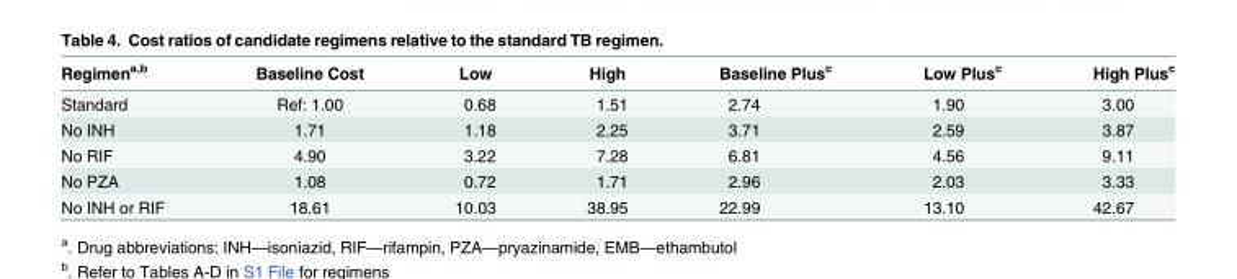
<table><thead><tr><td>Regimen<sup>a,b</sup></td><td>Baseline Cost</td><td>Low</td><td>High</td><td>Baseline Plus<sup>c</sup></td><td>Low Plus<sup>c</sup></td><td>High Plus<sup>c</sup></td></tr></thead><tbody><tr><td>Standard</td><td>Ref: 1.00</td><td>0.68</td><td>1.51</td><td>2.74</td><td>1.90</td><td>3.00</td></tr><tr><td>No INH</td><td>1.71</td><td>1.18</td><td>2.25</td><td>3.71</td><td>2.59</td><td>3.87</td></tr><tr><td>No RIF</td><td>4.90</td><td>3.22</td><td>7.28</td><td>6.81</td><td>4.56</td><td>9.11</td></tr><tr><td>No PZA</td><td>1.08</td><td>0.72</td><td>1.71</td><td>2.96</td><td>2.03</td><td>3.33</td></tr><tr><td>No INH or RIF</td><td>18.61</td><td>10.03</td><td>38.95</td><td>22.99</td><td>13.10</td><td>42.67</td></tr></tbody></table>